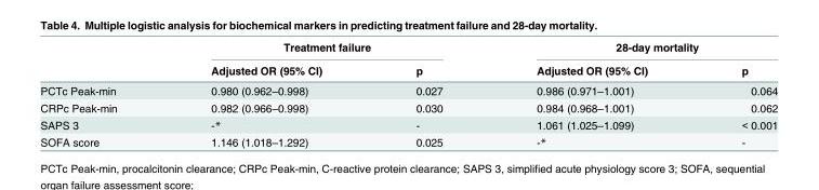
<table><thead><tr><td rowspan="2"></td><td colspan="2">Treatment failure</td><td colspan="2">28-day mortality</td></tr><tr><td>Adjusted OR (95% CI)</td><td>p</td><td>Adjusted OR (95% CI)</td><td>p</td></tr></thead><tbody><tr><td>PCTc Peak-min</td><td>0.980 (0.962–0.998)</td><td>0.027</td><td>0.986 (0.971–1.001)</td><td>0.064</td></tr><tr><td>CRPc Peak-min</td><td>0.982 (0.966–0.998)</td><td>0.030</td><td>0.984 (0.968–1.001)</td><td>0.062</td></tr><tr><td>SAPS 3</td><td>-*</td><td>-</td><td>1.061 (1.025–1.099)</td><td>&lt; 0.001</td></tr><tr><td>SOFA score</td><td>1.146 (1.018–1.292)</td><td>0.025</td><td>-*</td><td>-</td></tr></tbody></table>